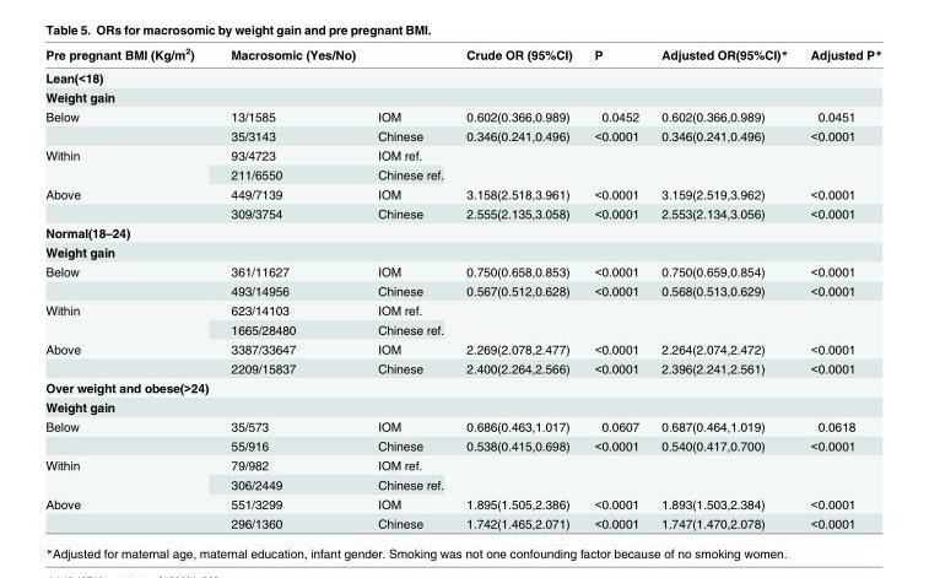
<table><thead><tr><td>Pre pregnant BMI (Kg/m<sup>2</sup>)</td><td>Macrosomic (Yes/No)</td><td></td><td>Crude OR (95%CI)</td><td>P</td><td>Adjusted OR(95%CI)*</td><td>Adjusted P*</td></tr></thead><tbody><tr><td colspan="7">Lean(&lt;18)</td></tr><tr><td colspan="7">Weight gain</td></tr><tr><td rowspan="2">Below</td><td>13/1585</td><td>IOM</td><td>0.602(0.366,0.989)</td><td>0.0452</td><td>0.602(0.366,0.989)</td><td>0.0451</td></tr><tr><td>35/3143</td><td>Chinese</td><td>0.346(0.241,0.496)</td><td>&lt;0.0001</td><td>0.346(0.241,0.496)</td><td>&lt;0.0001</td></tr><tr><td rowspan="2">Within</td><td>93/4723</td><td>IOM ref.</td><td rowspan="2"></td><td rowspan="2"></td><td rowspan="2"></td><td rowspan="2"></td></tr><tr><td>211/6550</td><td>Chinese ref.</td></tr><tr><td rowspan="2">Above</td><td>449/7139</td><td>IOM</td><td>3.158(2.518,3.961)</td><td>&lt;0.0001</td><td>3.159(2.519,3.962)</td><td>&lt;0.0001</td></tr><tr><td>309/3754</td><td>Chinese</td><td>2.555(2.135,3.058)</td><td>&lt;0.0001</td><td>2.553(2.134,3.056)</td><td>&lt;0.0001</td></tr><tr><td colspan="7">Normal(18–24)</td></tr><tr><td colspan="7">Weight gain</td></tr><tr><td rowspan="2">Below</td><td>361/11627</td><td>IOM</td><td>0.750(0.658,0.853)</td><td>&lt;0.0001</td><td>0.750(0.659,0.854)</td><td>&lt;0.0001</td></tr><tr><td>493/14956</td><td>Chinese</td><td>0.567(0.512,0.628)</td><td>&lt;0.0001</td><td>0.568(0.513,0.629)</td><td>&lt;0.0001</td></tr><tr><td rowspan="2">Within</td><td>623/14103</td><td>IOM ref.</td><td rowspan="2"></td><td rowspan="2"></td><td rowspan="2"></td><td rowspan="2"></td></tr><tr><td>1665/28480</td><td>Chinese ref.</td></tr><tr><td rowspan="2">Above</td><td>3387/33647</td><td>IOM</td><td>2.269(2.078,2.477)</td><td>&lt;0.0001</td><td>2.264(2.074,2.472)</td><td>&lt;0.0001</td></tr><tr><td>2209/15837</td><td>Chinese</td><td>2.400(2.264,2.566)</td><td>&lt;0.0001</td><td>2.396(2.241,2.561)</td><td>&lt;0.0001</td></tr><tr><td colspan="7">Over weight and obese(&gt;24)</td></tr><tr><td colspan="7">Weight gain</td></tr><tr><td rowspan="2">Below</td><td>35/573</td><td>IOM</td><td>0.686(0.463,1.017)</td><td>0.0607</td><td>0.687(0.464,1.019)</td><td>0.0618</td></tr><tr><td>55/916</td><td>Chinese</td><td>0.538(0.415,0.698)</td><td>&lt;0.0001</td><td>0.540(0.417,0.700)</td><td>&lt;0.0001</td></tr><tr><td rowspan="2">Within</td><td>79/982</td><td>IOM ref.</td><td rowspan="2"></td><td rowspan="2"></td><td rowspan="2"></td><td rowspan="2"></td></tr><tr><td>306/2449</td><td>Chinese ref.</td></tr><tr><td rowspan="2">Above</td><td>551/3299</td><td>IOM</td><td>1.895(1.505,2.386)</td><td>&lt;0.0001</td><td>1.893(1.503,2.384)</td><td>&lt;0.0001</td></tr><tr><td>296/1360</td><td>Chinese</td><td>1.742(1.465,2.071)</td><td>&lt;0.0001</td><td>1.747(1.470,2.078)</td><td>&lt;0.0001</td></tr></tbody></table>